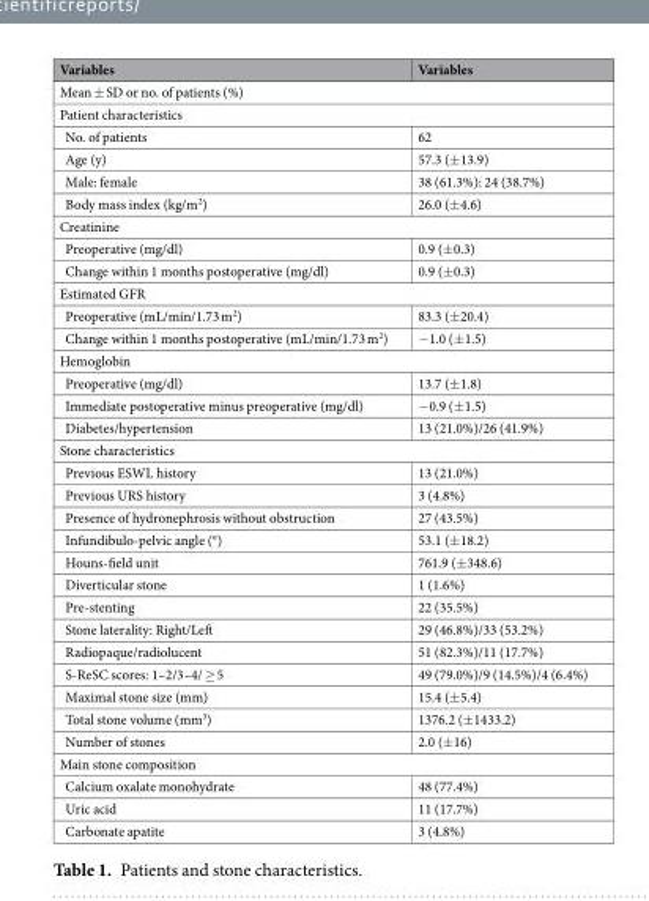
<table><thead><tr><td>Variables</td><td>Variables</td></tr></thead><tbody><tr><td colspan="2">Mean ± SD or no. of patients (%)</td></tr><tr><td colspan="2">Patient characteristics</td></tr><tr><td>No. of patients</td><td>62</td></tr><tr><td>Age (y)</td><td>57.3 (±13.9)</td></tr><tr><td>Male: female</td><td>38 (61.3%): 24 (38.7%)</td></tr><tr><td>Body mass index (kg/m<sup>2</sup>)</td><td>26.0 (±4.6)</td></tr><tr><td colspan="2">Creatinine</td></tr><tr><td>Preoperative (mg/dl)</td><td>0.9 (±0.3)</td></tr><tr><td>Change within 1 months postoperative (mg/dl)</td><td>0.9 (±0.3)</td></tr><tr><td colspan="2">Estimated GFR</td></tr><tr><td>Preoperative (mL/min/1.73 m<sup>2</sup>)</td><td>83.3 (±20.4)</td></tr><tr><td>Change within 1 months postoperative (mL/min/1.73 m<sup>2</sup>)</td><td>−1.0 (±1.5)</td></tr><tr><td colspan="2">Hemoglobin</td></tr><tr><td>Preoperative (mg/dl)</td><td>13.7 (±1.8)</td></tr><tr><td>Immediate postoperative minus preoperative (mg/dl)</td><td>−0.9 (±1.5)</td></tr><tr><td>Diabetes/hypertension</td><td>13 (21.0%)/26 (41.9%)</td></tr><tr><td colspan="2">Stone characteristics</td></tr><tr><td>Previous ESWL history</td><td>13 (21.0%)</td></tr><tr><td>Previous URS history</td><td>3 (4.8%)</td></tr><tr><td>Presence of hydronephrosis without obstruction</td><td>27 (43.5%)</td></tr><tr><td>Infundibulo-pelvic angle (°)</td><td>53.1 (±18.2)</td></tr><tr><td>Houns-field unit</td><td>761.9 (±348.6)</td></tr><tr><td>Diverticular stone</td><td>1 (1.6%)</td></tr><tr><td>Pre-stenting</td><td>22 (35.5%)</td></tr><tr><td>Stone laterality: Right/Left</td><td>29 (46.8%)/33 (53.2%)</td></tr><tr><td>Radiopaque/radiolucent</td><td>51 (82.3%)/11 (17.7%)</td></tr><tr><td>S-ReSC scores: 1–2/3–4/ ≥ 5</td><td>49 (79.0%)/9 (14.5%)/4 (6.4%)</td></tr><tr><td>Maximal stone size (mm)</td><td>15.4 (±5.4)</td></tr><tr><td>Total stone volume (mm<sup>3</sup>)</td><td>1376.2 (±1433.2)</td></tr><tr><td>Number of stones</td><td>2.0 (±16)</td></tr><tr><td colspan="2">Main stone composition</td></tr><tr><td>Calcium oxalate monohydrate</td><td>48 (77.4%)</td></tr><tr><td>Uric acid</td><td>11 (17.7%)</td></tr><tr><td>Carbonate apatite</td><td>3 (4.8%)</td></tr></tbody></table>